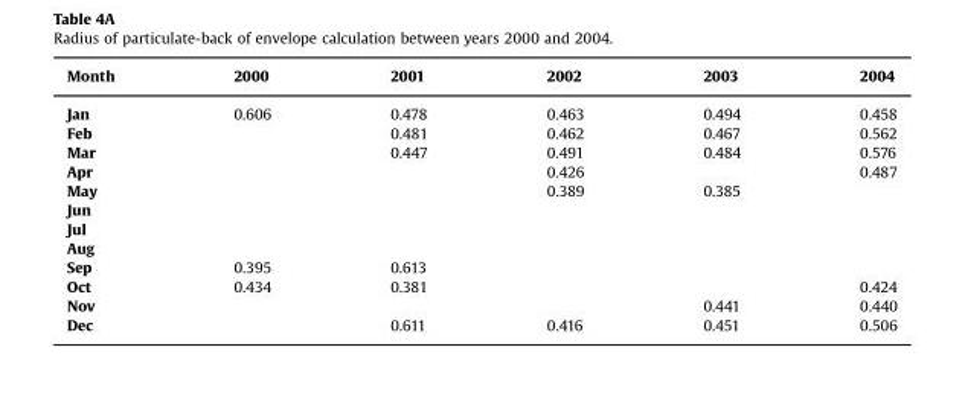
<table><thead><tr><td>Month</td><td>2000</td><td>2001</td><td>2002</td><td>2003</td><td>2004</td></tr></thead><tbody><tr><td>Jan</td><td>0.606</td><td>0.478</td><td>0.463</td><td>0.494</td><td>0.458</td></tr><tr><td>Feb</td><td></td><td>0.481</td><td>0.462</td><td>0.467</td><td>0.562</td></tr><tr><td>Mar</td><td></td><td>0.447</td><td>0.491</td><td>0.484</td><td>0.576</td></tr><tr><td>Apr</td><td></td><td></td><td>0.426</td><td></td><td>0.487</td></tr><tr><td>May</td><td></td><td></td><td>0.389</td><td>0.385</td><td></td></tr><tr><td colspan="6">Jun</td></tr><tr><td colspan="6">Jul</td></tr><tr><td colspan="6">Aug</td></tr><tr><td>Sep</td><td>0.395</td><td>0.613</td><td></td><td></td><td></td></tr><tr><td>Oct</td><td>0.434</td><td>0.381</td><td></td><td></td><td>0.424</td></tr><tr><td>Nov</td><td></td><td></td><td></td><td>0.441</td><td>0.440</td></tr><tr><td>Dec</td><td></td><td>0.611</td><td>0.416</td><td>0.451</td><td>0.506</td></tr></tbody></table>